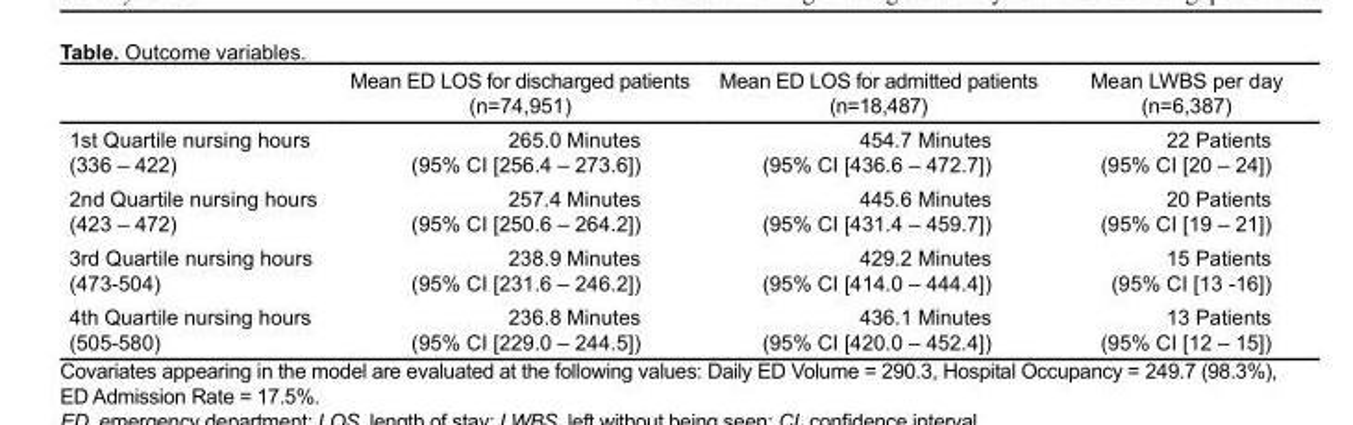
<table><thead><tr><td></td><td>Mean ED LOS for discharged patients (n=74,951)</td><td>Mean ED LOS for admitted patients (n=18,487)</td><td>Mean LWBS per day (n=6,387)</td></tr></thead><tbody><tr><td>1st Quartile nursing hours (336 – 422)</td><td>265.0 Minutes (95% CI [256.4 – 273.6])</td><td>454.7 Minutes (95% CI [436.6 – 472.7])</td><td>22 Patients (95% CI [20 – 24])</td></tr><tr><td>2nd Quartile nursing hours (423 – 472)</td><td>257.4 Minutes (95% CI [250.6 – 264.2])</td><td>445.6 Minutes (95% CI [431.4 – 459.7])</td><td>20 Patients (95% CI [19 – 21])</td></tr><tr><td>3rd Quartile nursing hours (473-504)</td><td>238.9 Minutes (95% CI [231.6 – 246.2])</td><td>429.2 Minutes (95% CI [414.0 – 444.4])</td><td>15 Patients (95% CI [13 -16])</td></tr><tr><td>4th Quartile nursing hours (505-580)</td><td>236.8 Minutes (95% CI [229.0 – 244.5])</td><td>436.1 Minutes (95% CI [420.0 – 452.4])</td><td>13 Patients (95% CI [12 – 15])</td></tr></tbody></table>